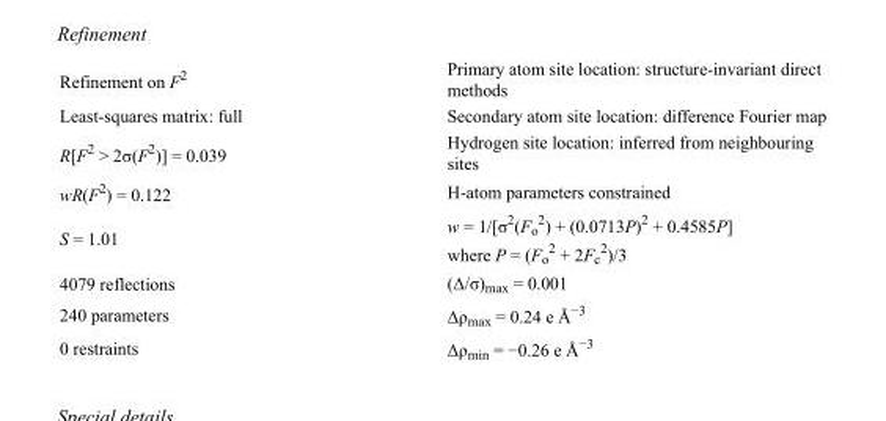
<table><tbody><tr><td>Refinement on F<sup>2</sup></td><td>Primary atom site location: structure-invariant direct methods</td></tr><tr><td>Least-squares matrix: full</td><td>Secondary atom site location: difference Fourier map</td></tr><tr><td>R[F<sup>2</sup> &gt; 2σ(F<sup>2</sup>)] = 0.039</td><td>Hydrogen site location: inferred from neighbouring sites</td></tr><tr><td>wR(F<sup>2</sup>) = 0.122</td><td>H-atom parameters constrained</td></tr><tr><td>S = 1.01</td><td>w = 1/[σ<sup>2</sup>(F<sub>o</sub> <sup>2</sup>) + (0.0713P)<sup>2</sup> + 0.4585P] where P = (F<sub>o</sub> <sup>2</sup> + 2F<sub>c</sub> <sup>2</sup>)/3</td></tr><tr><td>4079 reflections</td><td>(Δ/σ)<sub>max</sub> = 0.001</td></tr><tr><td>240 parameters</td><td>Δρ<sub>max</sub> = 0.24 e Å<sup>−3</sup></td></tr><tr><td>0 restraints</td><td>Δρ<sub>min</sub> = −0.26 e Å<sup>−3</sup></td></tr></tbody></table>